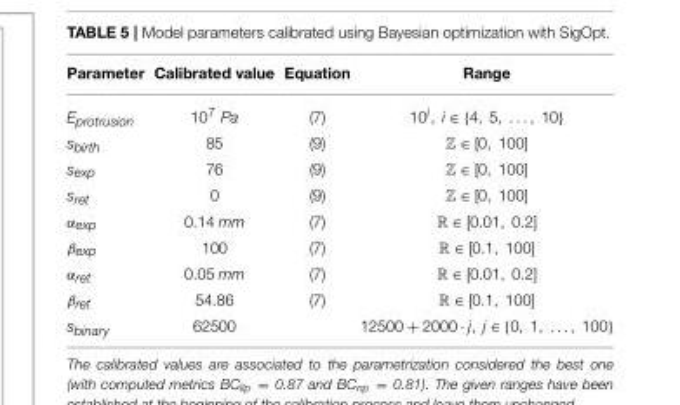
<table><thead><tr><td>Parameter</td><td>Calibrated value</td><td>Equation</td><td>Range</td></tr></thead><tbody><tr><td>E<sub>protrusion</sub></td><td>10<sup>7</sup> Pa</td><td>(7)</td><td>10<sup>i</sup>, i ∈ {4, 5, . . . , 10}</td></tr><tr><td>s<sub>birth</sub></td><td>85</td><td>(9)</td><td>Z ∈ [0, 100]</td></tr><tr><td>s<sub>exp</sub></td><td>76</td><td>(9)</td><td>Z ∈ [0, 100]</td></tr><tr><td>s<sub>ret</sub></td><td>0</td><td>(9)</td><td>Z ∈ [0, 100]</td></tr><tr><td>α<sub>exp</sub></td><td>0.14 mm</td><td>(7)</td><td>R ∈ [0.01, 0.2]</td></tr><tr><td>β<sub>exp</sub></td><td>100</td><td>(7)</td><td>R ∈ [0.1, 100]</td></tr><tr><td>α<sub>ret</sub></td><td>0.05 mm</td><td>(7)</td><td>R ∈ [0.01, 0.2]</td></tr><tr><td>β<sub>ret</sub></td><td>54.86</td><td>(7)</td><td>R ∈ [0.1, 100]</td></tr><tr><td>s<sub>binary</sub></td><td>62500</td><td></td><td>12500 + 2000 · j, j ∈ {0, 1, . . . , 100}</td></tr></tbody></table>